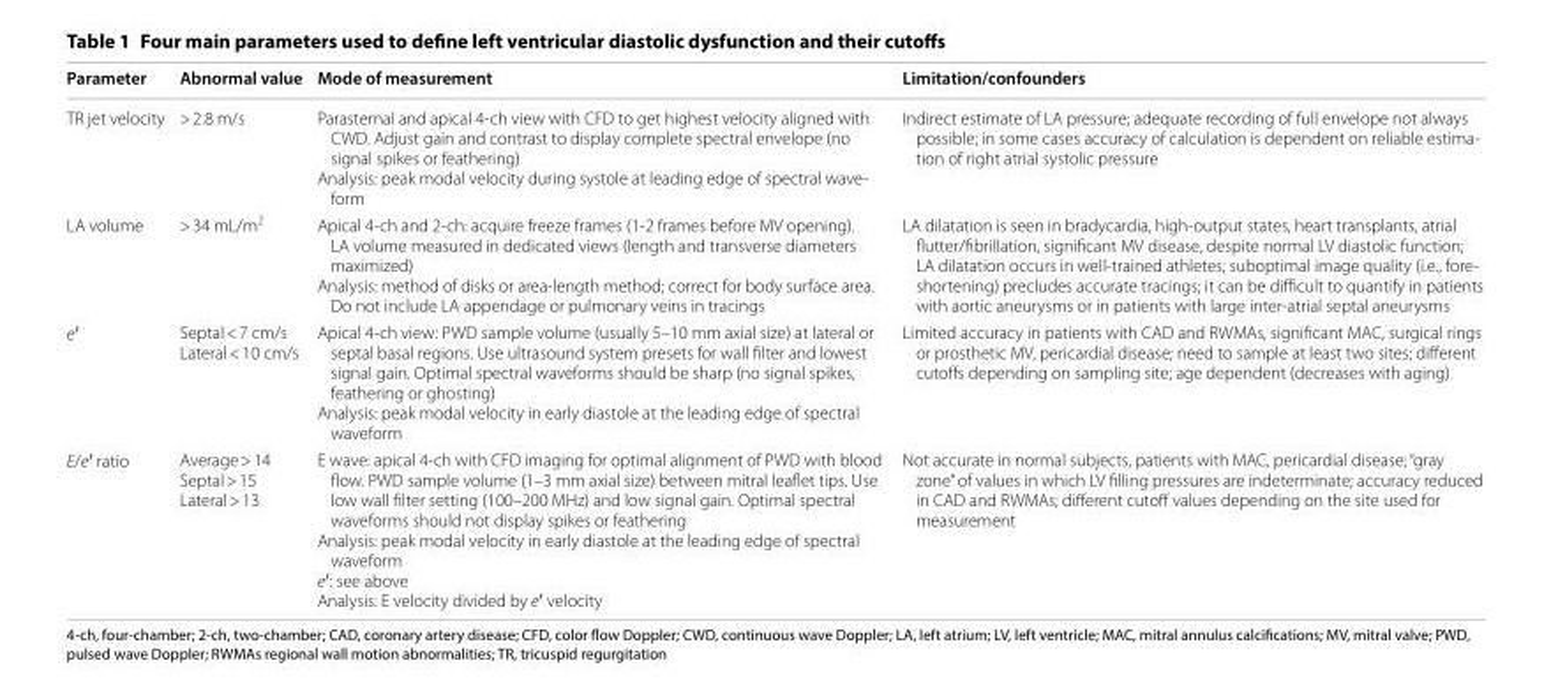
<table><thead><tr><td>Parameter</td><td>Abnormal value</td><td>Mode of measurement</td><td>Limitation/confounders</td></tr></thead><tbody><tr><td>TR jet velocity</td><td>&gt; 2.8 m/s</td><td>Parasternal and apical 4‑ch view with CFD to get highest velocity aligned with CWD. Adjust gain and contrast to display complete spectral envelope (no signal spikes or feathering) Analysis: peak modal velocity during systole at leading edge of spectral wave‑ form</td><td>Indirect estimate of LA pressure; adequate recording of full envelope not always possible; in some cases accuracy of calculation is dependent on reliable estima‑ tion of right atrial systolic pressure</td></tr><tr><td>LA volume</td><td>&gt; 34 mL/m<sup>2</sup></td><td>Apical 4‑ch and 2‑ch: acquire freeze frames (1‑2 frames before MV opening). LA volume measured in dedicated views (length and transverse diameters maximized) Analysis: method of disks or area‑length method; correct for body surface area. Do not include LA appendage or pulmonary veins in tracings</td><td>LA dilatation is seen in bradycardia, high‑output states, heart transplants, atrial flutter/fibrillation, significant MV disease, despite normal LV diastolic function; LA dilatation occurs in well‑trained athletes; suboptimal image quality (i.e., fore‑ shortening) precludes accurate tracings; it can be difficult to quantify in patients with aortic aneurysms or in patients with large inter‑atrial septal aneurysms</td></tr><tr><td>e′</td><td>Septal &lt; 7 cm/s Lateral &lt; 10 cm/s</td><td>Apical 4‑ch view: PWD sample volume (usually 5–10 mm axial size) at lateral or septal basal regions. Use ultrasound system presets for wall filter and lowest signal gain. Optimal spectral waveforms should be sharp (no signal spikes, feathering or ghosting) Analysis: peak modal velocity in early diastole at the leading edge of spectral waveform</td><td>Limited accuracy in patients with CAD and RWMAs, significant MAC, surgical rings or prosthetic MV, pericardial disease; need to sample at least two sites; different cutoffs depending on sampling site; age dependent (decreases with aging)</td></tr><tr><td>E/e′ ratio</td><td>Average &gt; 14 Septal &gt; 15 Lateral &gt; 13</td><td>E wave: apical 4‑ch with CFD imaging for optimal alignment of PWD with blood flow. PWD sample volume (1–3 mm axial size) between mitral leaflet tips. Use low wall filter setting (100–200 MHz) and low signal gain. Optimal spectral waveforms should not display spikes or feathering Analysis: peak modal velocity in early diastole at the leading edge of spectral waveform e′: see above Analysis: E velocity divided by e′ velocity</td><td>Not accurate in normal subjects, patients with MAC, pericardial disease; “gray zone” of values in which LV filling pressures are indeterminate; accuracy reduced in CAD and RWMAs; different cutoff values depending on the site used for measurement</td></tr></tbody></table>